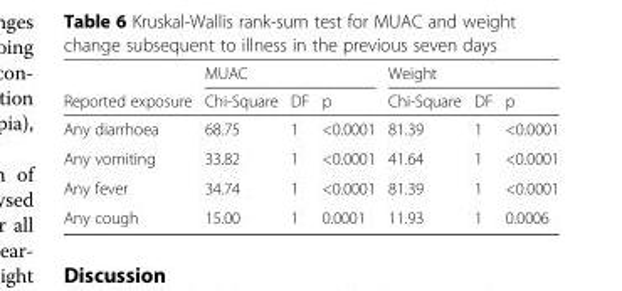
<table><thead><tr><td rowspan="2">Reported exposure</td><td colspan="3">MUAC</td><td colspan="3">Weight</td></tr><tr><td>Chi-Square</td><td>DF</td><td>p</td><td>Chi-Square</td><td>DF</td><td>p</td></tr></thead><tbody><tr><td>Any diarrhoea</td><td>68.75</td><td>1</td><td>&lt;0.0001</td><td>81.39</td><td>1</td><td>&lt;0.0001</td></tr><tr><td>Any vomiting</td><td>33.82</td><td>1</td><td>&lt;0.0001</td><td>41.64</td><td>1</td><td>&lt;0.0001</td></tr><tr><td>Any fever</td><td>34.74</td><td>1</td><td>&lt;0.0001</td><td>81.39</td><td>1</td><td>&lt;0.0001</td></tr><tr><td>Any cough</td><td>15.00</td><td>1</td><td>0.0001</td><td>11.93</td><td>1</td><td>0.0006</td></tr></tbody></table>